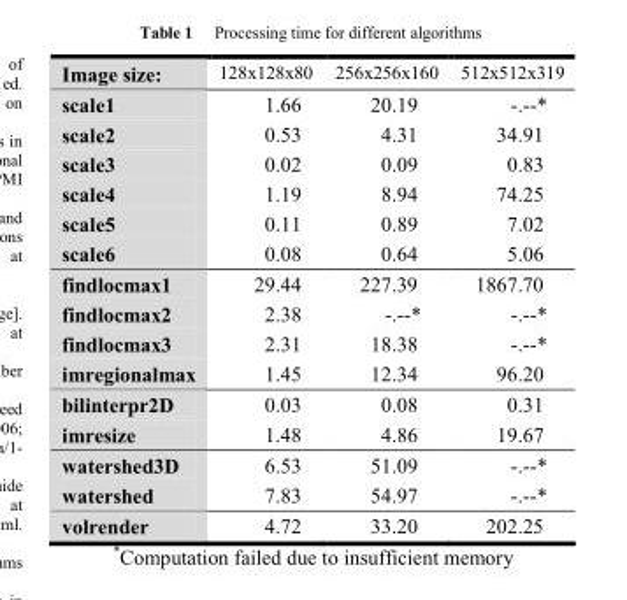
<table><thead><tr><td>Image size:</td><td>128x128x80</td><td>256x256x160</td><td>512x512x319</td></tr></thead><tbody><tr><td>scale1</td><td>1.66</td><td>20.19</td><td>-.--*</td></tr><tr><td>scale2</td><td>0.53</td><td>4.31</td><td>34.91</td></tr><tr><td>scale3</td><td>0.02</td><td>0.09</td><td>0.83</td></tr><tr><td>scale4</td><td>1.19</td><td>8.94</td><td>74.25</td></tr><tr><td>scale5</td><td>0.11</td><td>0.89</td><td>7.02</td></tr><tr><td>scale6</td><td>0.08</td><td>0.64</td><td>5.06</td></tr><tr><td>findlocmax1</td><td>29.44</td><td>227.39</td><td>1867.70</td></tr><tr><td>findlocmax2</td><td>2.38</td><td>-.--*</td><td>-.--*</td></tr><tr><td>findlocmax3</td><td>2.31</td><td>18.38</td><td>-.--*</td></tr><tr><td>imregionalmax</td><td>1.45</td><td>12.34</td><td>96.20</td></tr><tr><td>bilinterpr2D</td><td>0.03</td><td>0.08</td><td>0.31</td></tr><tr><td>imresize</td><td>1.48</td><td>4.86</td><td>19.67</td></tr><tr><td>watershed3D</td><td>6.53</td><td>51.09</td><td>-.--*</td></tr><tr><td>watershed</td><td>7.83</td><td>54.97</td><td>-.--*</td></tr><tr><td>volrender</td><td>4.72</td><td>33.20</td><td>202.25</td></tr></tbody></table>